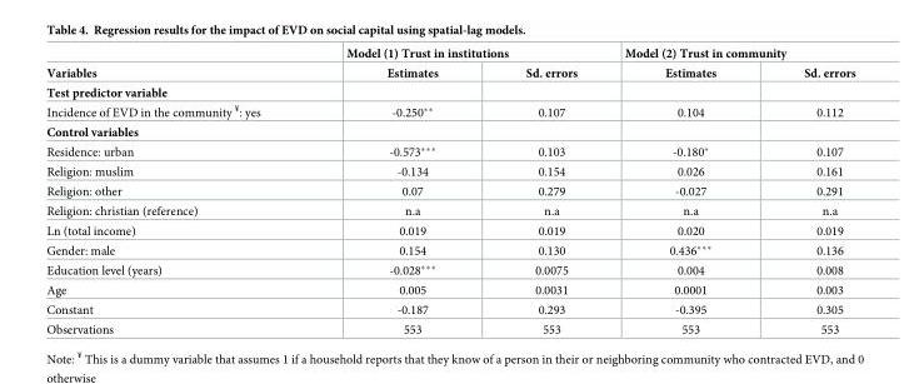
<table><thead><tr><td rowspan="2">Variables</td><td colspan="2">Model (1) Trust in institutions</td><td colspan="2">Model (2) Trust in community</td></tr><tr><td>Estimates</td><td>Sd. errors</td><td>Estimates</td><td>Sd. errors</td></tr></thead><tbody><tr><td colspan="5">Test predictor variable</td></tr><tr><td>Incidence of EVD in the community <sup>¥</sup>: yes</td><td>-0.250**</td><td>0.107</td><td>0.104</td><td>0.112</td></tr><tr><td colspan="5">Control variables</td></tr><tr><td>Residence: urban</td><td>-0.573***</td><td>0.103</td><td>-0.180*</td><td>0.107</td></tr><tr><td>Religion: muslim</td><td>-0.134</td><td>0.154</td><td>0.026</td><td>0.161</td></tr><tr><td>Religion: other</td><td>0.07</td><td>0.279</td><td>-0.027</td><td>0.291</td></tr><tr><td>Religion: christian (reference)</td><td>n.a</td><td>n.a</td><td>n.a</td><td>n.a</td></tr><tr><td>Ln (total income)</td><td>0.019</td><td>0.019</td><td>0.020</td><td>0.019</td></tr><tr><td>Gender: male</td><td>0.154</td><td>0.130</td><td>0.436***</td><td>0.136</td></tr><tr><td>Education level (years)</td><td>-0.028***</td><td>0.0075</td><td>0.004</td><td>0.008</td></tr><tr><td>Age</td><td>0.005</td><td>0.0031</td><td>0.0001</td><td>0.003</td></tr><tr><td>Constant</td><td>-0.187</td><td>0.293</td><td>-0.395</td><td>0.305</td></tr><tr><td>Observations</td><td>553</td><td>553</td><td>553</td><td>553</td></tr></tbody></table>